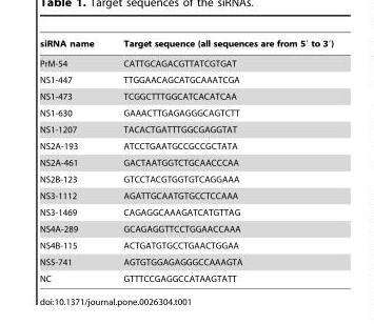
<table><thead><tr><td>siRNA name</td><td>Target sequence (all sequences are from 5′ to 3′)</td></tr></thead><tbody><tr><td>PrM-54</td><td>CATTGCAGACGTTATCGTGAT</td></tr><tr><td>NS1-447</td><td>TTGGAACAGCATGCAAATCGA</td></tr><tr><td>NS1-473</td><td>TCGGCTTTGGCATCACATCAA</td></tr><tr><td>NS1-630</td><td>GAAACTTGAGAGGGCAGTCTT</td></tr><tr><td>NS1-1207</td><td>TACACTGATTTGGCGAGGTAT</td></tr><tr><td>NS2A-193</td><td>ATCCTGAATGCCGCCGCTATA</td></tr><tr><td>NS2A-461</td><td>GACTAATGGTCTGCAACCCAA</td></tr><tr><td>NS2B-123</td><td>GTCCTACGTGGTGTCAGGAAA</td></tr><tr><td>NS3-1112</td><td>AGATTGCAATGTGCCTCCAAA</td></tr><tr><td>NS3-1469</td><td>CAGAGGCAAAGATCATGTTAG</td></tr><tr><td>NS4A-289</td><td>GCAGAGGTTCCTGGAACCAAA</td></tr><tr><td>NS4B-115</td><td>ACTGATGTGCCTGAACTGGAA</td></tr><tr><td>NS5-741</td><td>AGTGTGGAGAGGGCCAAAGTA</td></tr><tr><td>NC</td><td>GTTTCCGAGGCCATAAGTATT</td></tr></tbody></table>